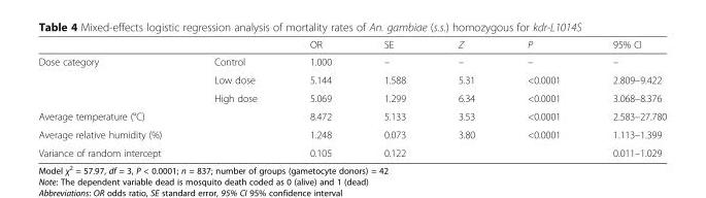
<table><thead><tr><td></td><td></td><td>OR</td><td>SE</td><td>Z</td><td>P</td><td>95% CI</td></tr></thead><tbody><tr><td rowspan="3">Dose category</td><td>Control</td><td>1.000</td><td>–</td><td>–</td><td>–</td><td>–</td></tr><tr><td>Low dose</td><td>5.144</td><td>1.588</td><td>5.31</td><td>&lt;0.0001</td><td>2.809–9.422</td></tr><tr><td>High dose</td><td>5.069</td><td>1.299</td><td>6.34</td><td>&lt;0.0001</td><td>3.068–8.376</td></tr><tr><td>Average temperature (°C)</td><td></td><td>8.472</td><td>5.133</td><td>3.53</td><td>&lt;0.0001</td><td>2.583–27.780</td></tr><tr><td>Average relative humidity (%)</td><td></td><td>1.248</td><td>0.073</td><td>3.80</td><td>&lt;0.0001</td><td>1.113–1.399</td></tr><tr><td>Variance of random intercept</td><td></td><td>0.105</td><td>0.122</td><td></td><td></td><td>0.011–1.029</td></tr></tbody></table>